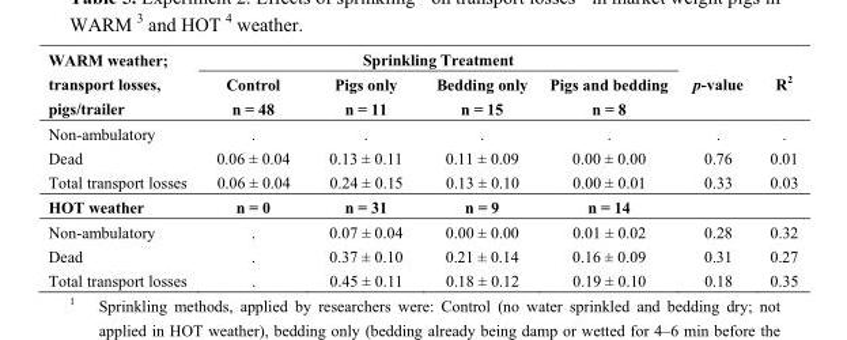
<table><thead><tr><td rowspan="3">WARM weather; transport losses, pigs/trailer</td><td colspan="4">Sprinkling Treatment</td><td rowspan="3">p-value</td><td rowspan="3">R<sup>2</sup></td></tr><tr><td rowspan="2">Control n = 48</td><td rowspan="2">Pigs only n = 11</td><td rowspan="2">Bedding only n = 15</td><td rowspan="2">Pigs and bedding n = 8</td></tr><tr></tr></thead><tbody><tr><td>Non-ambulatory</td><td>.</td><td>.</td><td>.</td><td>.</td><td>.</td><td>.</td></tr><tr><td>Dead</td><td>0.06 ± 0.04</td><td>0.13 ± 0.11</td><td>0.11 ± 0.09</td><td>0.00 ± 0.00</td><td>0.76</td><td>0.01</td></tr><tr><td>Total transport losses</td><td>0.06 ± 0.04</td><td>0.24 ± 0.15</td><td>0.13 ± 0.10</td><td>0.00 ± 0.01</td><td>0.33</td><td>0.03</td></tr><tr><td>HOT weather</td><td>n = 0</td><td>n = 31</td><td>n = 9</td><td>n = 14</td><td></td><td></td></tr><tr><td>Non-ambulatory</td><td>.</td><td>0.07 ± 0.04</td><td>0.00 ± 0.00</td><td>0.01 ± 0.02</td><td>0.28</td><td>0.32</td></tr><tr><td>Dead</td><td>.</td><td>0.37 ± 0.10</td><td>0.21 ± 0.14</td><td>0.16 ± 0.09</td><td>0.31</td><td>0.27</td></tr><tr><td>Total transport losses</td><td>.</td><td>0.45 ± 0.11</td><td>0.18 ± 0.12</td><td>0.19 ± 0.10</td><td>0.18</td><td>0.35</td></tr></tbody></table>